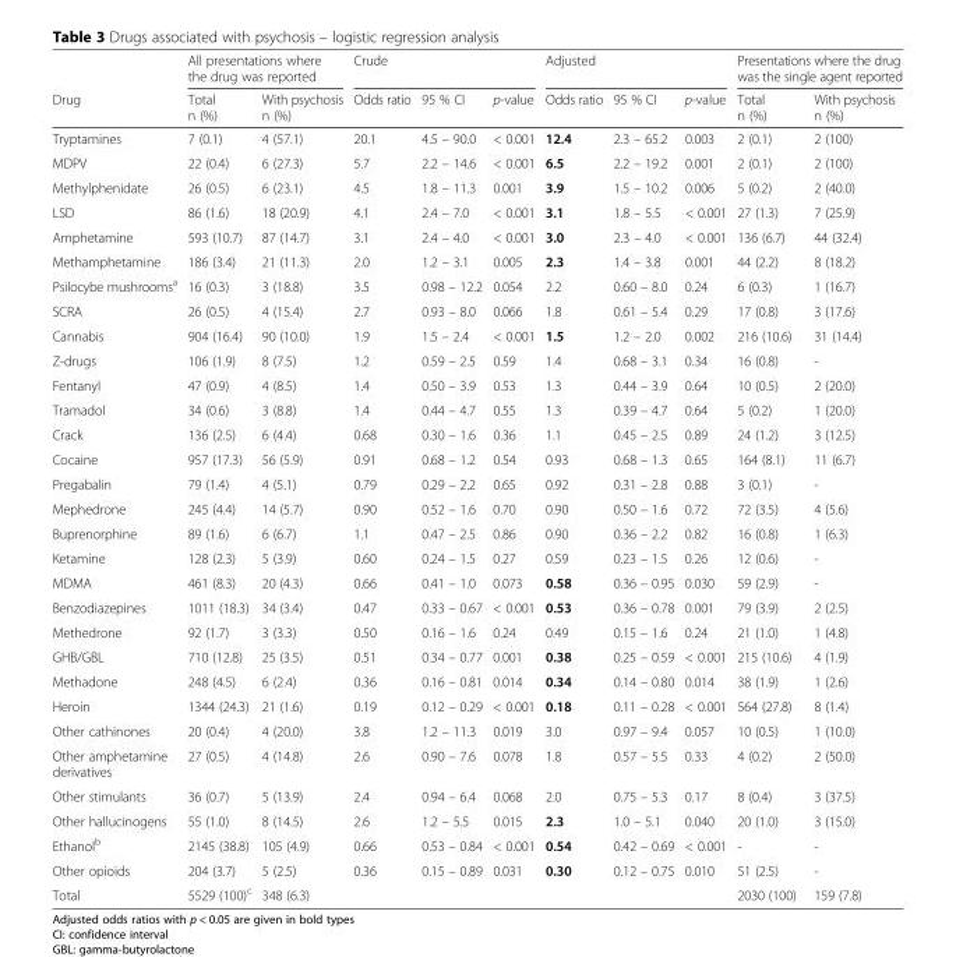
<table><thead><tr><td rowspan="2">Drug</td><td colspan="2">All presentations where the drug was reported</td><td colspan="3">Crude</td><td colspan="3">Adjusted</td><td colspan="2">Presentations where the drug was the single agent reported</td></tr><tr><td>Total n (%)</td><td>With psychosis n (%)</td><td>Odds ratio</td><td>95 % CI</td><td>p-value</td><td>Odds ratio</td><td>95 % CI</td><td>p-value</td><td>Total n (%)</td><td>With psychosis n (%)</td></tr></thead><tbody><tr><td>Tryptamines</td><td>7 (0.1)</td><td>4 (57.1)</td><td>20.1</td><td>4.5 – 90.0</td><td>&lt; 0.001</td><td>12.4</td><td>2.3 – 65.2</td><td>0.003</td><td>2 (0.1)</td><td>2 (100)</td></tr><tr><td>MDPV</td><td>22 (0.4)</td><td>6 (27.3)</td><td>5.7</td><td>2.2 – 14.6</td><td>&lt; 0.001</td><td>6.5</td><td>2.2 – 19.2</td><td>0.001</td><td>2 (0.1)</td><td>2 (100)</td></tr><tr><td>Methylphenidate</td><td>26 (0.5)</td><td>6 (23.1)</td><td>4.5</td><td>1.8 – 11.3</td><td>0.001</td><td>3.9</td><td>1.5 – 10.2</td><td>0.006</td><td>5 (0.2)</td><td>2 (40.0)</td></tr><tr><td>LSD</td><td>86 (1.6)</td><td>18 (20.9)</td><td>4.1</td><td>2.4 – 7.0</td><td>&lt; 0.001</td><td>3.1</td><td>1.8 – 5.5</td><td>&lt; 0.001</td><td>27 (1.3)</td><td>7 (25.9)</td></tr><tr><td>Amphetamine</td><td>593 (10.7)</td><td>87 (14.7)</td><td>3.1</td><td>2.4 – 4.0</td><td>&lt; 0.001</td><td>3.0</td><td>2.3 – 4.0</td><td>&lt; 0.001</td><td>136 (6.7)</td><td>44 (32.4)</td></tr><tr><td>Methamphetamine</td><td>186 (3.4)</td><td>21 (11.3)</td><td>2.0</td><td>1.2 – 3.1</td><td>0.005</td><td>2.3</td><td>1.4 – 3.8</td><td>0.001</td><td>44 (2.2)</td><td>8 (18.2)</td></tr><tr><td>Psilocybe mushrooms<sup>a</sup></td><td>16 (0.3)</td><td>3 (18.8)</td><td>3.5</td><td>0.98 – 12.2</td><td>0.054</td><td>2.2</td><td>0.60 – 8.0</td><td>0.24</td><td>6 (0.3)</td><td>1 (16.7)</td></tr><tr><td>SCRA</td><td>26 (0.5)</td><td>4 (15.4)</td><td>2.7</td><td>0.93 – 8.0</td><td>0.066</td><td>1.8</td><td>0.61 – 5.4</td><td>0.29</td><td>17 (0.8)</td><td>3 (17.6)</td></tr><tr><td>Cannabis</td><td>904 (16.4)</td><td>90 (10.0)</td><td>1.9</td><td>1.5 – 2.4</td><td>&lt; 0.001</td><td>1.5</td><td>1.2 – 2.0</td><td>0.002</td><td>216 (10.6)</td><td>31 (14.4)</td></tr><tr><td>Z-drugs</td><td>106 (1.9)</td><td>8 (7.5)</td><td>1.2</td><td>0.59 – 2.5</td><td>0.59</td><td>1.4</td><td>0.68 – 3.1</td><td>0.34</td><td>16 (0.8)</td><td>-</td></tr><tr><td>Fentanyl</td><td>47 (0.9)</td><td>4 (8.5)</td><td>1.4</td><td>0.50 – 3.9</td><td>0.53</td><td>1.3</td><td>0.44 – 3.9</td><td>0.64</td><td>10 (0.5)</td><td>2 (20.0)</td></tr><tr><td>Tramadol</td><td>34 (0.6)</td><td>3 (8.8)</td><td>1.4</td><td>0.44 – 4.7</td><td>0.55</td><td>1.3</td><td>0.39 – 4.7</td><td>0.64</td><td>5 (0.2)</td><td>1 (20.0)</td></tr><tr><td>Crack</td><td>136 (2.5)</td><td>6 (4.4)</td><td>0.68</td><td>0.30 – 1.6</td><td>0.36</td><td>1.1</td><td>0.45 – 2.5</td><td>0.89</td><td>24 (1.2)</td><td>3 (12.5)</td></tr><tr><td>Cocaine</td><td>957 (17.3)</td><td>56 (5.9)</td><td>0.91</td><td>0.68 – 1.2</td><td>0.54</td><td>0.93</td><td>0.68 – 1.3</td><td>0.65</td><td>164 (8.1)</td><td>11 (6.7)</td></tr><tr><td>Pregabalin</td><td>79 (1.4)</td><td>4 (5.1)</td><td>0.79</td><td>0.29 – 2.2</td><td>0.65</td><td>0.92</td><td>0.31 – 2.8</td><td>0.88</td><td>3 (0.1)</td><td>-</td></tr><tr><td>Mephedrone</td><td>245 (4.4)</td><td>14 (5.7)</td><td>0.90</td><td>0.52 – 1.6</td><td>0.70</td><td>0.90</td><td>0.50 – 1.6</td><td>0.72</td><td>72 (3.5)</td><td>4 (5.6)</td></tr><tr><td>Buprenorphine</td><td>89 (1.6)</td><td>6 (6.7)</td><td>1.1</td><td>0.47 – 2.5</td><td>0.86</td><td>0.90</td><td>0.36 – 2.2</td><td>0.82</td><td>16 (0.8)</td><td>1 (6.3)</td></tr><tr><td>Ketamine</td><td>128 (2.3)</td><td>5 (3.9)</td><td>0.60</td><td>0.24 – 1.5</td><td>0.27</td><td>0.59</td><td>0.23 – 1.5</td><td>0.26</td><td>12 (0.6)</td><td>-</td></tr><tr><td>MDMA</td><td>461 (8.3)</td><td>20 (4.3)</td><td>0.66</td><td>0.41 – 1.0</td><td>0.073</td><td>0.58</td><td>0.36 – 0.95</td><td>0.030</td><td>59 (2.9)</td><td>-</td></tr><tr><td>Benzodiazepines</td><td>1011 (18.3)</td><td>34 (3.4)</td><td>0.47</td><td>0.33 – 0.67</td><td>&lt; 0.001</td><td>0.53</td><td>0.36 – 0.78</td><td>0.001</td><td>79 (3.9)</td><td>2 (2.5)</td></tr><tr><td>Methedrone</td><td>92 (1.7)</td><td>3 (3.3)</td><td>0.50</td><td>0.16 – 1.6</td><td>0.24</td><td>0.49</td><td>0.15 – 1.6</td><td>0.24</td><td>21 (1.0)</td><td>1 (4.8)</td></tr><tr><td>GHB/GBL</td><td>710 (12.8)</td><td>25 (3.5)</td><td>0.51</td><td>0.34 – 0.77</td><td>0.001</td><td>0.38</td><td>0.25 – 0.59</td><td>&lt; 0.001</td><td>215 (10.6)</td><td>4 (1.9)</td></tr><tr><td>Methadone</td><td>248 (4.5)</td><td>6 (2.4)</td><td>0.36</td><td>0.16 – 0.81</td><td>0.014</td><td>0.34</td><td>0.14 – 0.80</td><td>0.014</td><td>38 (1.9)</td><td>1 (2.6)</td></tr><tr><td>Heroin</td><td>1344 (24.3)</td><td>21 (1.6)</td><td>0.19</td><td>0.12 – 0.29</td><td>&lt; 0.001</td><td>0.18</td><td>0.11 – 0.28</td><td>&lt; 0.001</td><td>564 (27.8)</td><td>8 (1.4)</td></tr><tr><td>Other cathinones</td><td>20 (0.4)</td><td>4 (20.0)</td><td>3.8</td><td>1.2 – 11.3</td><td>0.019</td><td>3.0</td><td>0.97 – 9.4</td><td>0.057</td><td>10 (0.5)</td><td>1 (10.0)</td></tr><tr><td>Other amphetamine derivatives</td><td>27 (0.5)</td><td>4 (14.8)</td><td>2.6</td><td>0.90 – 7.6</td><td>0.078</td><td>1.8</td><td>0.57 – 5.5</td><td>0.33</td><td>4 (0.2)</td><td>2 (50.0)</td></tr><tr><td>Other stimulants</td><td>36 (0.7)</td><td>5 (13.9)</td><td>2.4</td><td>0.94 – 6.4</td><td>0.068</td><td>2.0</td><td>0.75 – 5.3</td><td>0.17</td><td>8 (0.4)</td><td>3 (37.5)</td></tr><tr><td>Other hallucinogens</td><td>55 (1.0)</td><td>8 (14.5)</td><td>2.6</td><td>1.2 – 5.5</td><td>0.015</td><td>2.3</td><td>1.0 – 5.1</td><td>0.040</td><td>20 (1.0)</td><td>3 (15.0)</td></tr><tr><td>Ethanol<sup>b</sup></td><td>2145 (38.8)</td><td>105 (4.9)</td><td>0.66</td><td>0.53 – 0.84</td><td>&lt; 0.001</td><td>0.54</td><td>0.42 – 0.69</td><td>&lt; 0.001</td><td>-</td><td>-</td></tr><tr><td>Other opioids</td><td>204 (3.7)</td><td>5 (2.5)</td><td>0.36</td><td>0.15 – 0.89</td><td>0.031</td><td>0.30</td><td>0.12 – 0.75</td><td>0.010</td><td>51 (2.5)</td><td>-</td></tr><tr><td>Total</td><td>5529 (100)<sup>c</sup></td><td>348 (6.3)</td><td></td><td></td><td></td><td></td><td></td><td></td><td>2030 (100)</td><td>159 (7.8)</td></tr></tbody></table>